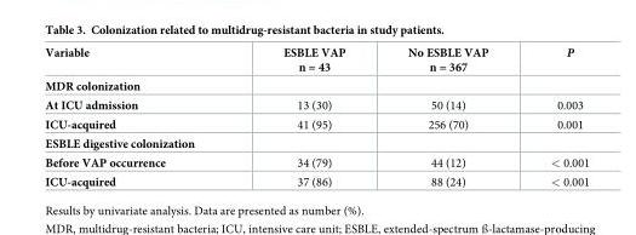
<table><thead><tr><td>Variable</td><td>ESBLE VAP n = 43</td><td>No ESBLE VAP n = 367</td><td>P</td></tr></thead><tbody><tr><td colspan="4">MDR colonization</td></tr><tr><td>At ICU admission</td><td>13 (30)</td><td>50 (14)</td><td>0.003</td></tr><tr><td>ICU-acquired</td><td>41 (95)</td><td>256 (70)</td><td>0.001</td></tr><tr><td colspan="4">ESBLE digestive colonization</td></tr><tr><td>Before VAP occurrence</td><td>34 (79)</td><td>44 (12)</td><td>&lt; 0.001</td></tr><tr><td>ICU-acquired</td><td>37 (86)</td><td>88 (24)</td><td>&lt; 0.001</td></tr></tbody></table>